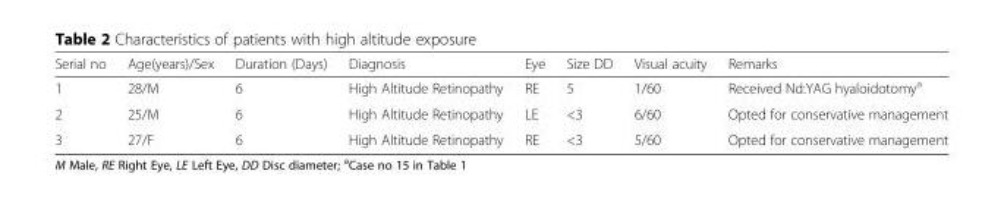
<table><thead><tr><td>Serial no</td><td>Age(years)/Sex</td><td>Duration (Days)</td><td>Diagnosis</td><td>Eye</td><td>Size DD</td><td>Visual acuity</td><td>Remarks</td></tr></thead><tbody><tr><td>1</td><td>28/M</td><td>6</td><td>High Altitude Retinopathy</td><td>RE</td><td>5</td><td>1/60</td><td>Received Nd:YAG hyaloidotomy<sup>a</sup></td></tr><tr><td>2</td><td>25/M</td><td>6</td><td>High Altitude Retinopathy</td><td>LE</td><td>&lt;3</td><td>6/60</td><td>Opted for conservative management</td></tr><tr><td>3</td><td>27/F</td><td>6</td><td>High Altitude Retinopathy</td><td>RE</td><td>&lt;3</td><td>5/60</td><td>Opted for conservative management</td></tr></tbody></table>